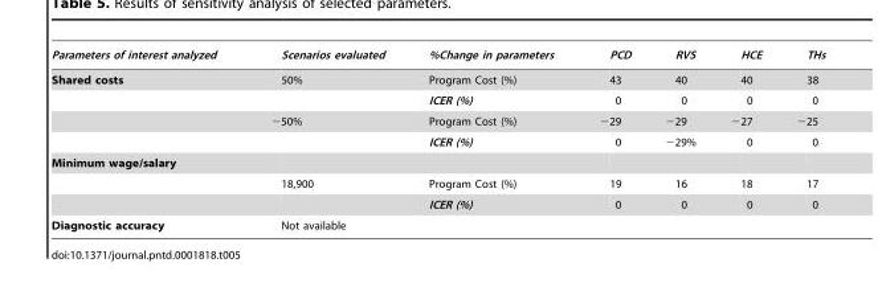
<table><thead><tr><td>Parameters of interest analyzed</td><td>Scenarios evaluated</td><td>%Change in parameters</td><td>PCD</td><td>RVS</td><td>HCE</td><td>THs</td></tr></thead><tbody><tr><td rowspan="4">Shared costs</td><td>50%</td><td>Program Cost (%)</td><td>43</td><td>40</td><td>40</td><td>38</td></tr><tr><td></td><td>ICER (%)</td><td>0</td><td>0</td><td>0</td><td>0</td></tr><tr><td>−50%</td><td>Program Cost (%)</td><td>−29</td><td>−29</td><td>−27</td><td>−25</td></tr><tr><td></td><td>ICER (%)</td><td>0</td><td>−29%</td><td>0</td><td>0</td></tr><tr><td colspan="7">Minimum wage/salary</td></tr><tr><td></td><td>18,900</td><td>Program Cost (%)</td><td>19</td><td>16</td><td>18</td><td>17</td></tr><tr><td></td><td></td><td>ICER (%)</td><td>0</td><td>0</td><td>0</td><td>0</td></tr><tr><td>Diagnostic accuracy</td><td>Not available</td><td></td><td></td><td></td><td></td><td></td></tr></tbody></table>